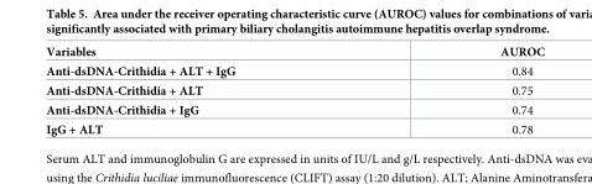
<table><thead><tr><td>Variables</td><td>AUROC</td></tr></thead><tbody><tr><td>Anti-dsDNA-Crithidia + ALT + IgG</td><td>0.84</td></tr><tr><td>Anti-dsDNA-Crithidia + ALT</td><td>0.75</td></tr><tr><td>Anti-dsDNA-Crithidia + IgG</td><td>0.74</td></tr><tr><td>IgG + ALT</td><td>0.78</td></tr></tbody></table>